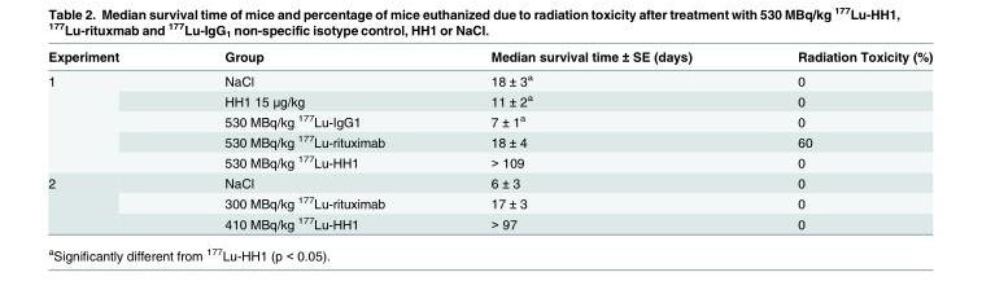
<table><thead><tr><td>Experiment</td><td>Group</td><td>Median survival time ± SE (days)</td><td>Radiation Toxicity (%)</td></tr></thead><tbody><tr><td rowspan="5">1</td><td>NaCl</td><td>18 ± 3<sup>a</sup></td><td>0</td></tr><tr><td>HH1 15 μg/kg</td><td>11 ± 2<sup>a</sup></td><td>0</td></tr><tr><td>530 MBq/kg <sup>177</sup>Lu-IgG1</td><td>7 ± 1<sup>a</sup></td><td>0</td></tr><tr><td>530 MBq/kg <sup>177</sup>Lu-rituximab</td><td>18 ± 4</td><td>60</td></tr><tr><td>530 MBq/kg <sup>177</sup>Lu-HH1</td><td>&gt; 109</td><td>0</td></tr><tr><td rowspan="3">2</td><td>NaCl</td><td>6 ± 3</td><td>0</td></tr><tr><td>300 MBq/kg <sup>177</sup>Lu-rituximab</td><td>17 ± 3</td><td>0</td></tr><tr><td>410 MBq/kg <sup>177</sup>Lu-HH1</td><td>&gt; 97</td><td>0</td></tr></tbody></table>